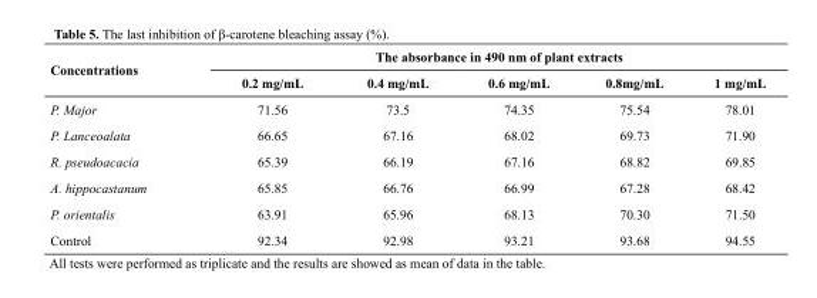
<table><thead><tr><td rowspan="2">Concentrations</td><td colspan="5">The absorbance in 490 nm of plant extracts</td></tr><tr><td>0.2 mg/mL</td><td>0.4 mg/mL</td><td>0.6 mg/mL</td><td>0.8mg/mL</td><td>1 mg/mL</td></tr></thead><tbody><tr><td>P. Major</td><td>71.56</td><td>73.5</td><td>74.35</td><td>75.54</td><td>78.01</td></tr><tr><td>P. Lanceoalata</td><td>66.65</td><td>67.16</td><td>68.02</td><td>69.73</td><td>71.90</td></tr><tr><td>R. pseudoacacia</td><td>65.39</td><td>66.19</td><td>67.16</td><td>68.82</td><td>69.85</td></tr><tr><td>A. hippocastanum</td><td>65.85</td><td>66.76</td><td>66.99</td><td>67.28</td><td>68.42</td></tr><tr><td>P. orientalis</td><td>63.91</td><td>65.96</td><td>68.13</td><td>70.30</td><td>71.50</td></tr><tr><td>Control</td><td>92.34</td><td>92.98</td><td>93.21</td><td>93.68</td><td>94.55</td></tr></tbody></table>